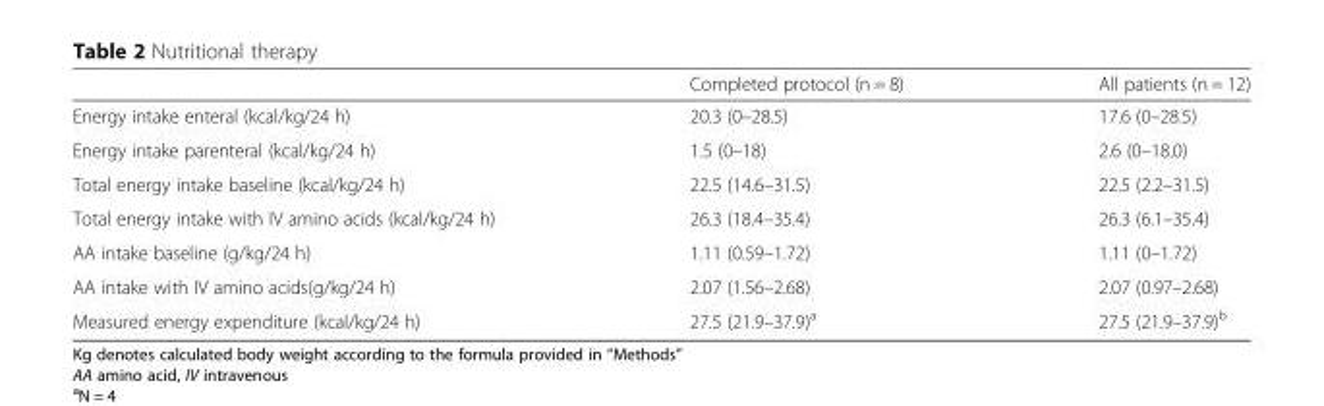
<table><thead><tr><td></td><td>Completed protocol (n = 8)</td><td>All patients (n = 12)</td></tr></thead><tbody><tr><td>Energy intake enteral (kcal/kg/24 h)</td><td>20.3 (0–28.5)</td><td>17.6 (0–28.5)</td></tr><tr><td>Energy intake parenteral (kcal/kg/24 h)</td><td>1.5 (0–18)</td><td>2.6 (0–18.0)</td></tr><tr><td>Total energy intake baseline (kcal/kg/24 h)</td><td>22.5 (14.6–31.5)</td><td>22.5 (2.2–31.5)</td></tr><tr><td>Total energy intake with IV amino acids (kcal/kg/24 h)</td><td>26.3 (18.4–35.4)</td><td>26.3 (6.1–35.4)</td></tr><tr><td>AA intake baseline (g/kg/24 h)</td><td>1.11 (0.59–1.72)</td><td>1.11 (0–1.72)</td></tr><tr><td>AA intake with IV amino acids(g/kg/24 h)</td><td>2.07 (1.56–2.68)</td><td>2.07 (0.97–2.68)</td></tr><tr><td>Measured energy expenditure (kcal/kg/24 h)</td><td>27.5 (21.9–37.9)<sup>a</sup></td><td>27.5 (21.9–37.9)<sup>b</sup></td></tr></tbody></table>